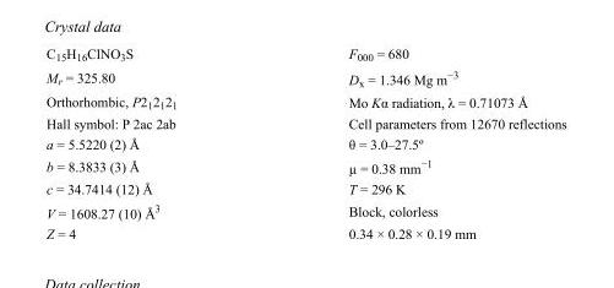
<table><tbody><tr><td>C<sub>15</sub>H<sub>16</sub>ClNO<sub>3</sub>S</td><td>F000 = 680</td></tr><tr><td>M<sub>r</sub> = 325.80</td><td>D<sub>x</sub> = 1.346 Mg m<sup>−3</sup></td></tr><tr><td>Orthorhombic, P2<sub>1</sub>2<sub>1</sub>2<sub>1</sub></td><td>Mo Kα radiation, λ = 0.71073 Å</td></tr><tr><td>Hall symbol: P 2ac 2ab</td><td>Cell parameters from 12670 reflections</td></tr><tr><td>a = 5.5220 (2) Å</td><td>θ = 3.0–27.5º</td></tr><tr><td>b = 8.3833 (3) Å</td><td>µ = 0.38 mm<sup>−1</sup></td></tr><tr><td>c = 34.7414 (12) Å</td><td>T = 296 K</td></tr><tr><td>V = 1608.27 (10) Å<sup>3</sup></td><td>Block, colorless</td></tr><tr><td>Z = 4</td><td>0.34 × 0.28 × 0.19 mm</td></tr></tbody></table>